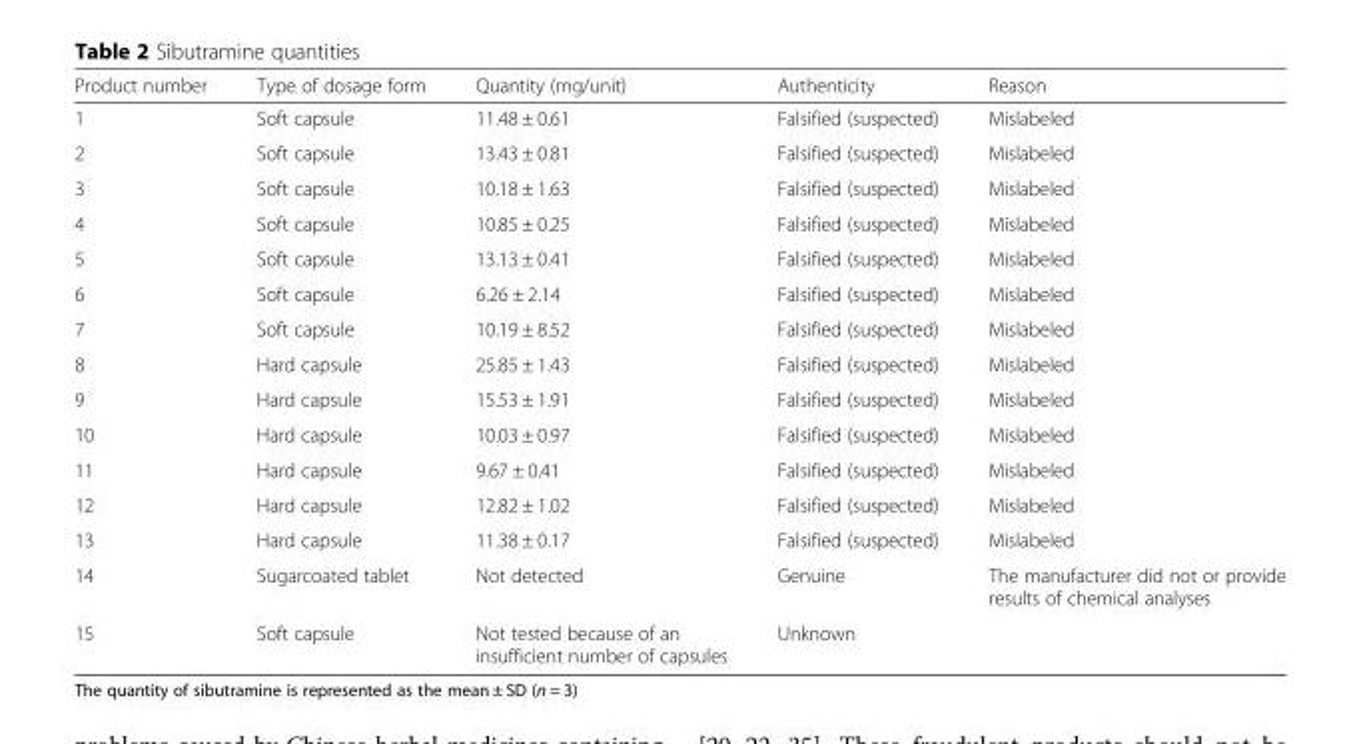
<table><thead><tr><td>Product number</td><td>Type of dosage form</td><td>Quantity (mg/unit)</td><td>Authenticity</td><td>Reason</td></tr></thead><tbody><tr><td>1</td><td>Soft capsule</td><td>11.48 ± 0.61</td><td>Falsified (suspected)</td><td>Mislabeled</td></tr><tr><td>2</td><td>Soft capsule</td><td>13.43 ± 0.81</td><td>Falsified (suspected)</td><td>Mislabeled</td></tr><tr><td>3</td><td>Soft capsule</td><td>10.18 ± 1.63</td><td>Falsified (suspected)</td><td>Mislabeled</td></tr><tr><td>4</td><td>Soft capsule</td><td>10.85 ± 0.25</td><td>Falsified (suspected)</td><td>Mislabeled</td></tr><tr><td>5</td><td>Soft capsule</td><td>13.13 ± 0.41</td><td>Falsified (suspected)</td><td>Mislabeled</td></tr><tr><td>6</td><td>Soft capsule</td><td>6.26 ± 2.14</td><td>Falsified (suspected)</td><td>Mislabeled</td></tr><tr><td>7</td><td>Soft capsule</td><td>10.19 ± 8.52</td><td>Falsified (suspected)</td><td>Mislabeled</td></tr><tr><td>8</td><td>Hard capsule</td><td>25.85 ± 1.43</td><td>Falsified (suspected)</td><td>Mislabeled</td></tr><tr><td>9</td><td>Hard capsule</td><td>15.53 ± 1.91</td><td>Falsified (suspected)</td><td>Mislabeled</td></tr><tr><td>10</td><td>Hard capsule</td><td>10.03 ± 0.97</td><td>Falsified (suspected)</td><td>Mislabeled</td></tr><tr><td>11</td><td>Hard capsule</td><td>9.67 ± 0.41</td><td>Falsified (suspected)</td><td>Mislabeled</td></tr><tr><td>12</td><td>Hard capsule</td><td>12.82 ± 1.02</td><td>Falsified (suspected)</td><td>Mislabeled</td></tr><tr><td>13</td><td>Hard capsule</td><td>11.38 ± 0.17</td><td>Falsified (suspected)</td><td>Mislabeled</td></tr><tr><td>14</td><td>Sugarcoated tablet</td><td>Not detected</td><td>Genuine</td><td>The manufacturer did not or provide results of chemical analyses</td></tr><tr><td>15</td><td>Soft capsule</td><td>Not tested because of an insufficient number of capsules</td><td>Unknown</td><td></td></tr></tbody></table>